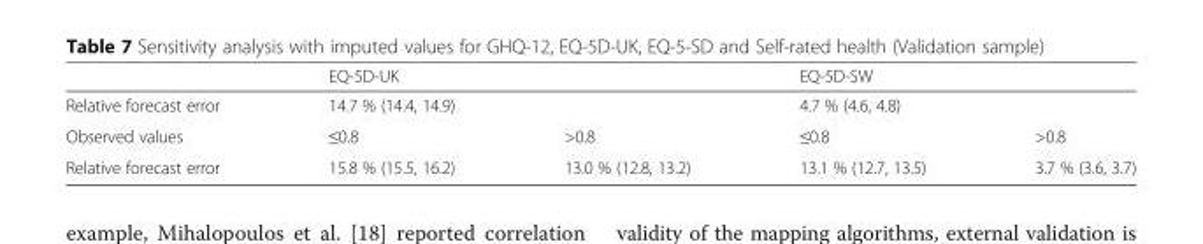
<table><thead><tr><td rowspan="3">Relative forecast error Observed values</td><td rowspan="2" colspan="2">EQ-5D-UK 14.7 % (14.4, 14.9)</td><td rowspan="2" colspan="2">EQ-5D-SW 4.7 % (4.6, 4.8)</td></tr><tr></tr><tr><td>≤0.8</td><td>&gt;0.8</td><td>≤0.8</td><td>&gt;0.8</td></tr></thead><tbody><tr><td>Relative forecast error</td><td>15.8 % (15.5, 16.2)</td><td>13.0 % (12.8, 13.2)</td><td>13.1 % (12.7, 13.5)</td><td>3.7 % (3.6, 3.7)</td></tr></tbody></table>